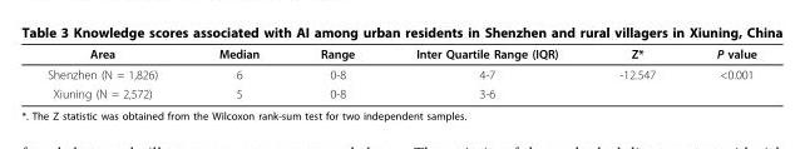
<table><thead><tr><td>Area</td><td>Median</td><td>Range</td><td>Inter Quartile Range (IQR)</td><td>Z*</td><td>P value</td></tr></thead><tbody><tr><td>Shenzhen (N = 1,826)</td><td>6</td><td>0-8</td><td>4-7</td><td>-12.547</td><td>&lt;0.001</td></tr><tr><td>Xiuning (N = 2,572)</td><td>5</td><td>0-8</td><td>3-6</td><td></td><td></td></tr></tbody></table>